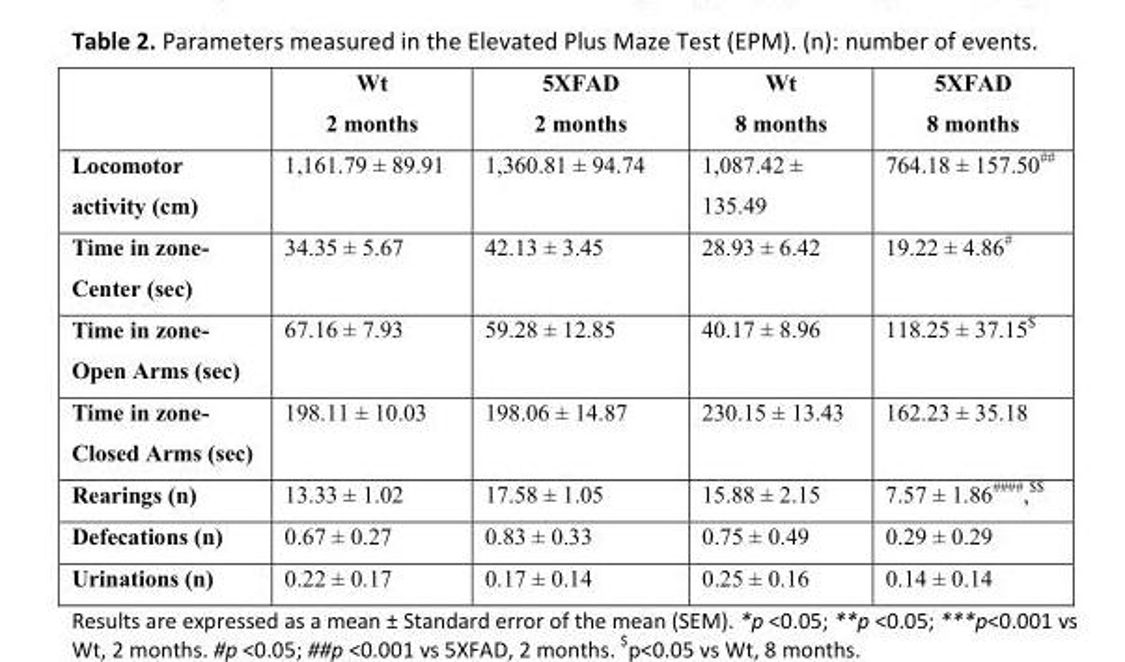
<table><thead><tr><td></td><td>Wt 2 months</td><td>5XFAD 2 months</td><td>Wt 8 months</td><td>5XFAD 8 months</td></tr></thead><tbody><tr><td>Locomotor activity (cm)</td><td>1,161.79 ± 89.91</td><td>1,360.81 ± 94.74</td><td>1,087.42 ± 135.49</td><td>764.18 ± 157.50<sup>##</sup></td></tr><tr><td>Time in zone- Center (sec)</td><td>34.35 ± 5.67</td><td>42.13 ± 3.45</td><td>28.93 ± 6.42</td><td>19.22 ± 4.86<sup>#</sup></td></tr><tr><td>Time in zone- Open Arms (sec)</td><td>67.16 ± 7.93</td><td>59.28 ± 12.85</td><td>40.17 ± 8.96</td><td>118.25 ± 37.15<sup>$</sup></td></tr><tr><td>Time in zone- Closed Arms (sec)</td><td>198.11 ± 10.03</td><td>198.06 ± 14.87</td><td>230.15 ± 13.43</td><td>162.23 ± 35.18</td></tr><tr><td>Rearings (n)</td><td>13.33 ± 1.02</td><td>17.58 ± 1.05</td><td>15.88 ± 2.15</td><td>7.57 ± 1.86<sup>####</sup>,<sup>$$</sup></td></tr><tr><td>Defecations (n)</td><td>0.67 ± 0.27</td><td>0.83 ± 0.33</td><td>0.75 ± 0.49</td><td>0.29 ± 0.29</td></tr><tr><td>Urinations (n)</td><td>0.22 ± 0.17</td><td>0.17 ± 0.14</td><td>0.25 ± 0.16</td><td>0.14 ± 0.14</td></tr></tbody></table>